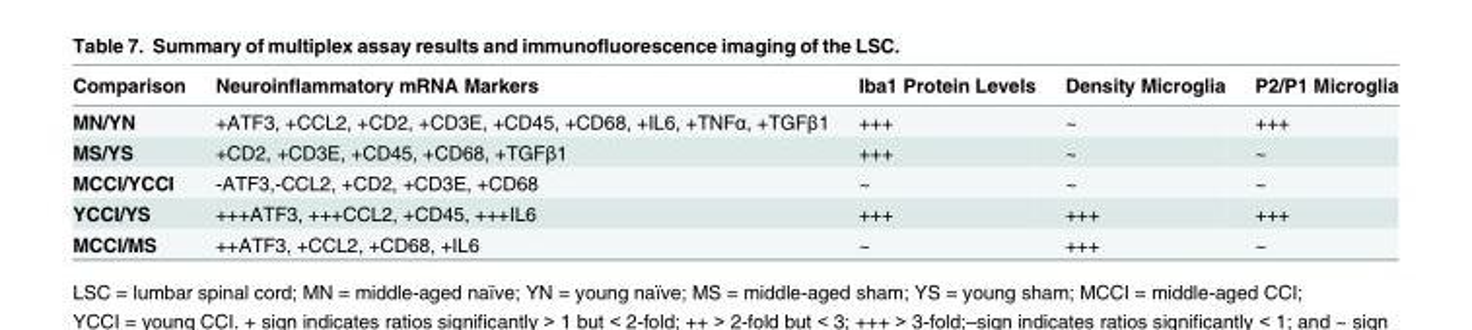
<table><thead><tr><td>Comparison</td><td>Neuroinflammatory mRNA Markers</td><td>Iba1 Protein Levels</td><td>Density Microglia</td><td>P2/P1 Microglia</td></tr></thead><tbody><tr><td>MN/YN</td><td>+ATF3, +CCL2, +CD2, +CD3E, +CD45, +CD68, +IL6, +TNFα, +TGFβ1</td><td>+++</td><td>~</td><td>+++</td></tr><tr><td>MS/YS</td><td>+CD2, +CD3E, +CD45, +CD68, +TGFβ1</td><td>+++</td><td>~</td><td>~</td></tr><tr><td>MCCI/YCCI</td><td>-ATF3,-CCL2, +CD2, +CD3E, +CD68</td><td>~</td><td>~</td><td>~</td></tr><tr><td>YCCI/YS</td><td>+++ATF3, +++CCL2, +CD45, +++IL6</td><td>+++</td><td>+++</td><td>+++</td></tr><tr><td>MCCI/MS</td><td>++ATF3, +CCL2, +CD68, +IL6</td><td>~</td><td>+++</td><td>~</td></tr></tbody></table>